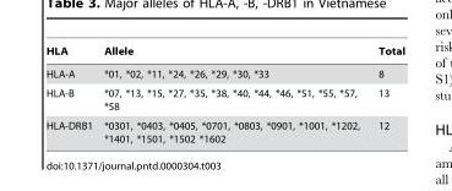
<table><thead><tr><td>HLA</td><td>Allele</td><td>Total</td></tr></thead><tbody><tr><td>HLA-A</td><td>*01, *02, *11, *24, *26, *29, *30, *33</td><td>8</td></tr><tr><td>HLA-B</td><td>*07, *13, *15, *27, *35, *38, *40, *44, *46, *51, *55, *57, *58</td><td>13</td></tr><tr><td>HLA-DRB1</td><td>*0301, *0403, *0405, *0701, *0803, *0901, *1001, *1202, *1401, *1501, *1502 *1602</td><td>12</td></tr></tbody></table>